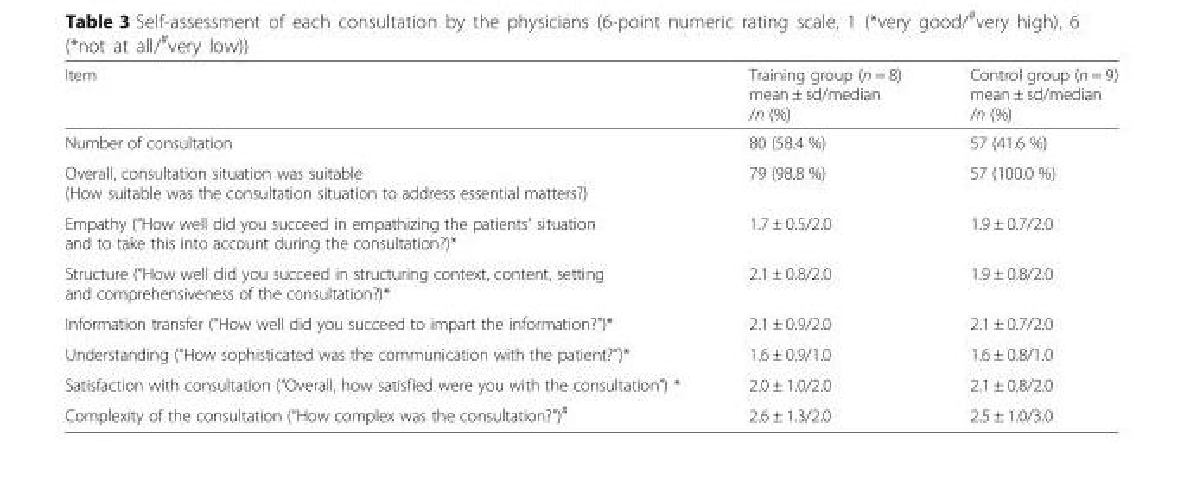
<table><thead><tr><td>Item</td><td>Training group (n = 8) mean ± sd/median /n (%)</td><td>Control group (n = 9) mean ± sd/median /n (%)</td></tr></thead><tbody><tr><td>Number of consultation</td><td>80 (58.4 %)</td><td>57 (41.6 %)</td></tr><tr><td>Overall, consultation situation was suitable (How suitable was the consultation situation to address essential matters?)</td><td>79 (98.8 %)</td><td>57 (100.0 %)</td></tr><tr><td>Empathy (“How well did you succeed in empathizing the patients’ situation and to take this into account during the consultation?)*</td><td>1.7 ± 0.5/2.0</td><td>1.9 ± 0.7/2.0</td></tr><tr><td>Structure (“How well did you succeed in structuring context, content, setting and comprehensiveness of the consultation?)*</td><td>2.1 ± 0.8/2.0</td><td>1.9 ± 0.8/2.0</td></tr><tr><td>Information transfer (“How well did you succeed to impart the information?”)*</td><td>2.1 ± 0.9/2.0</td><td>2.1 ± 0.7/2.0</td></tr><tr><td>Understanding (“How sophisticated was the communication with the patient?”)*</td><td>1.6 ± 0.9/1.0</td><td>1.6 ± 0.8/1.0</td></tr><tr><td>Satisfaction with consultation (“Overall, how satisfied were you with the consultation”) *</td><td>2.0 ± 1.0/2.0</td><td>2.1 ± 0.8/2.0</td></tr><tr><td>Complexity of the consultation (“How complex was the consultation?”)<sup>#</sup></td><td>2.6 ± 1.3/2.0</td><td>2.5 ± 1.0/3.0</td></tr></tbody></table>